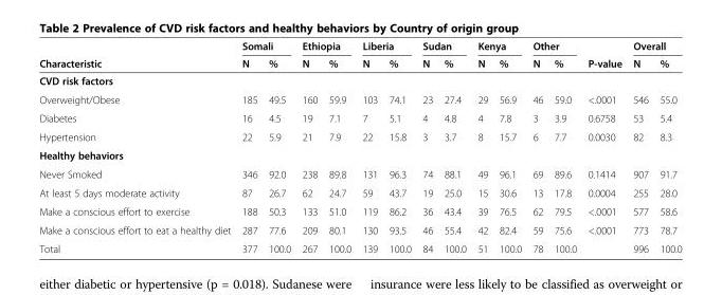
<table><thead><tr><td rowspan="2">Characteristic</td><td colspan="2">Somali</td><td colspan="2">Ethiopia</td><td colspan="2">Liberia</td><td colspan="2">Sudan</td><td colspan="2">Kenya</td><td colspan="2">Other</td><td rowspan="2">P-value</td><td colspan="2">Overall</td></tr><tr><td>N</td><td>%</td><td>N</td><td>%</td><td>N</td><td>%</td><td>N</td><td>%</td><td>N</td><td>%</td><td>N</td><td>%</td><td>N</td><td>%</td></tr></thead><tbody><tr><td colspan="16">CVD risk factors</td></tr><tr><td>Overweight/Obese</td><td>185</td><td>49.5</td><td>160</td><td>59.9</td><td>103</td><td>74.1</td><td>23</td><td>27.4</td><td>29</td><td>56.9</td><td>46</td><td>59.0</td><td>&lt;.0001</td><td>546</td><td>55.0</td></tr><tr><td>Diabetes</td><td>16</td><td>4.5</td><td>19</td><td>7.1</td><td>7</td><td>5.1</td><td>4</td><td>4.8</td><td>4</td><td>7.8</td><td>3</td><td>3.9</td><td>0.6758</td><td>53</td><td>5.4</td></tr><tr><td>Hypertension</td><td>22</td><td>5.9</td><td>21</td><td>7.9</td><td>22</td><td>15.8</td><td>3</td><td>3.7</td><td>8</td><td>15.7</td><td>6</td><td>7.7</td><td>0.0030</td><td>82</td><td>8.3</td></tr><tr><td colspan="16">Healthy behaviors</td></tr><tr><td>Never Smoked</td><td>346</td><td>92.0</td><td>238</td><td>89.8</td><td>131</td><td>96.3</td><td>74</td><td>88.1</td><td>49</td><td>96.1</td><td>69</td><td>89.6</td><td>0.1414</td><td>907</td><td>91.7</td></tr><tr><td>At least 5 days moderate activity</td><td>87</td><td>26.7</td><td>62</td><td>24.7</td><td>59</td><td>43.7</td><td>19</td><td>25.0</td><td>15</td><td>30.6</td><td>13</td><td>17.8</td><td>0.0004</td><td>255</td><td>28.0</td></tr><tr><td>Make a conscious effort to exercise</td><td>188</td><td>50.3</td><td>133</td><td>51.0</td><td>119</td><td>86.2</td><td>36</td><td>43.4</td><td>39</td><td>76.5</td><td>62</td><td>79.5</td><td>&lt;.0001</td><td>577</td><td>58.6</td></tr><tr><td>Make a conscious effort to eat a healthy diet</td><td>287</td><td>77.6</td><td>209</td><td>80.1</td><td>130</td><td>93.5</td><td>46</td><td>55.4</td><td>42</td><td>82.4</td><td>59</td><td>75.6</td><td>&lt;.0001</td><td>773</td><td>78.7</td></tr><tr><td>Total</td><td>377</td><td>100.0</td><td>267</td><td>100.0</td><td>139</td><td>100.0</td><td>84</td><td>100.0</td><td>51</td><td>100.0</td><td>78</td><td>100.0</td><td></td><td>996</td><td>100.0</td></tr></tbody></table>